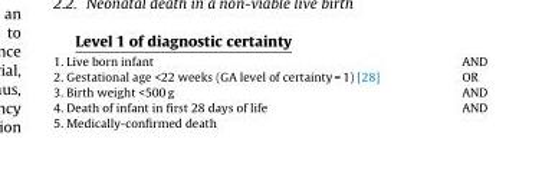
<table><tbody><tr><td>1. Live born infant</td><td>AND</td></tr><tr><td>2. Gestational age &lt;22 weeks (GA level of certainty = 1) [28]</td><td>OR</td></tr><tr><td>3. Birth weight &lt;500 g</td><td>AND</td></tr><tr><td>4. Death of infant in first 28 days of life</td><td>AND</td></tr><tr><td>5. Medically-confirmed death</td><td></td></tr></tbody></table>